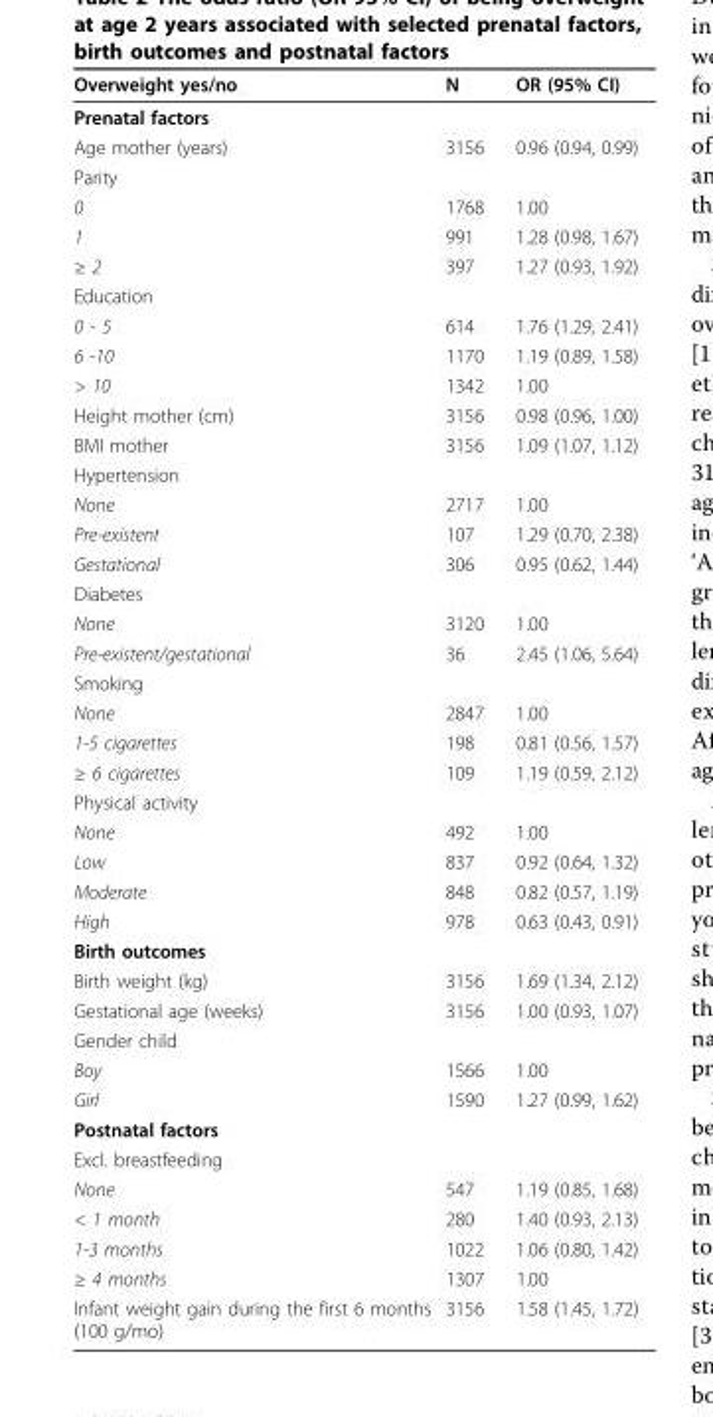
<table><thead><tr><td>Overweight yes/no</td><td>N</td><td>OR (95% CI)</td></tr></thead><tbody><tr><td colspan="3">Prenatal factors</td></tr><tr><td>Age mother (years)</td><td>3156</td><td>0.96 (0.94, 0.99)</td></tr><tr><td colspan="3">Parity</td></tr><tr><td>0</td><td>1768</td><td>1.00</td></tr><tr><td>1</td><td>991</td><td>1.28 (0.98, 1.67)</td></tr><tr><td>≥ 2</td><td>397</td><td>1.27 (0.93, 1.92)</td></tr><tr><td colspan="3">Education</td></tr><tr><td>0 - 5</td><td>614</td><td>1.76 (1.29, 2.41)</td></tr><tr><td>6 -10</td><td>1170</td><td>1.19 (0.89, 1.58)</td></tr><tr><td>&gt; 10</td><td>1342</td><td>1.00</td></tr><tr><td>Height mother (cm)</td><td>3156</td><td>0.98 (0.96, 1.00)</td></tr><tr><td>BMI mother</td><td>3156</td><td>1.09 (1.07, 1.12)</td></tr><tr><td colspan="3">Hypertension</td></tr><tr><td>None</td><td>2717</td><td>1.00</td></tr><tr><td>Pre-existent</td><td>107</td><td>1.29 (0.70, 2.38)</td></tr><tr><td>Gestational</td><td>306</td><td>0.95 (0.62, 1.44)</td></tr><tr><td colspan="3">Diabetes</td></tr><tr><td>None</td><td>3120</td><td>1.00</td></tr><tr><td>Pre-existent/gestational</td><td>36</td><td>2.45 (1.06, 5.64)</td></tr><tr><td colspan="3">Smoking</td></tr><tr><td>None</td><td>2847</td><td>1.00</td></tr><tr><td>1-5 cigarettes</td><td>198</td><td>0.81 (0.56, 1.57)</td></tr><tr><td>≥ 6 cigarettes</td><td>109</td><td>1.19 (0.59, 2.12)</td></tr><tr><td colspan="3">Physical activity</td></tr><tr><td>None</td><td>492</td><td>1.00</td></tr><tr><td>Low</td><td>837</td><td>0.92 (0.64, 1.32)</td></tr><tr><td>Moderate</td><td>848</td><td>0.82 (0.57, 1.19)</td></tr><tr><td>High</td><td>978</td><td>0.63 (0.43, 0.91)</td></tr><tr><td colspan="3">Birth outcomes</td></tr><tr><td>Birth weight (kg)</td><td>3156</td><td>1.69 (1.34, 2.12)</td></tr><tr><td>Gestational age (weeks)</td><td>3156</td><td>1.00 (0.93, 1.07)</td></tr><tr><td colspan="3">Gender child</td></tr><tr><td>Boy</td><td>1566</td><td>1.00</td></tr><tr><td>Girl</td><td>1590</td><td>1.27 (0.99, 1.62)</td></tr><tr><td colspan="3">Postnatal factors</td></tr><tr><td colspan="3">Excl. breastfeeding</td></tr><tr><td>None</td><td>547</td><td>1.19 (0.85, 1.68)</td></tr><tr><td>&lt; 1 month</td><td>280</td><td>1.40 (0.93, 2.13)</td></tr><tr><td>1-3 months</td><td>1022</td><td>1.06 (0.80, 1.42)</td></tr><tr><td>≥ 4 months</td><td>1307</td><td>1.00</td></tr><tr><td>Infant weight gain during the first 6 months (100 g/mo)</td><td>3156</td><td>1.58 (1.45, 1.72)</td></tr></tbody></table>